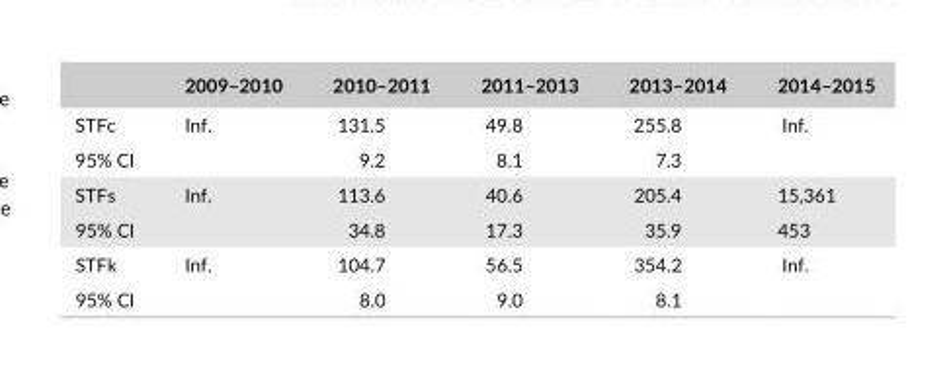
<table><thead><tr><td></td><td>2009–2010</td><td>2010–2011</td><td>2011–2013</td><td>2013–2014</td><td>2014–2015</td></tr></thead><tbody><tr><td>STFc</td><td rowspan="2">Inf.</td><td>131.5</td><td>49.8</td><td>255.8</td><td>Inf.</td></tr><tr><td>95% CI</td><td>9.2</td><td>8.1</td><td>7.3</td><td></td></tr><tr><td>STFs</td><td rowspan="2">Inf.</td><td>113.6</td><td>40.6</td><td>205.4</td><td>15,361</td></tr><tr><td>95% CI</td><td>34.8</td><td>17.3</td><td>35.9</td><td>453</td></tr><tr><td>STFk</td><td rowspan="2">Inf.</td><td>104.7</td><td>56.5</td><td>354.2</td><td>Inf.</td></tr><tr><td>95% CI</td><td>8.0</td><td>9.0</td><td>8.1</td><td></td></tr></tbody></table>